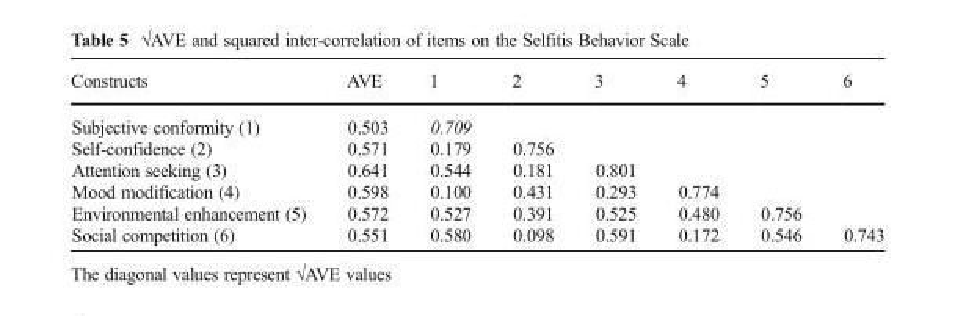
<table><thead><tr><td>Constructs</td><td>AVE</td><td>1</td><td>2</td><td>3</td><td>4</td><td>5</td><td>6</td></tr></thead><tbody><tr><td>Subjective conformity (1)</td><td>0.503</td><td>0.709</td><td></td><td></td><td></td><td></td><td></td></tr><tr><td>Self-confidence (2)</td><td>0.571</td><td>0.179</td><td>0.756</td><td></td><td></td><td></td><td></td></tr><tr><td>Attention seeking (3)</td><td>0.641</td><td>0.544</td><td>0.181</td><td>0.801</td><td></td><td></td><td></td></tr><tr><td>Mood modification (4)</td><td>0.598</td><td>0.100</td><td>0.431</td><td>0.293</td><td>0.774</td><td></td><td></td></tr><tr><td>Environmental enhancement (5)</td><td>0.572</td><td>0.527</td><td>0.391</td><td>0.525</td><td>0.480</td><td>0.756</td><td></td></tr><tr><td>Social competition (6)</td><td>0.551</td><td>0.580</td><td>0.098</td><td>0.591</td><td>0.172</td><td>0.546</td><td>0.743</td></tr></tbody></table>